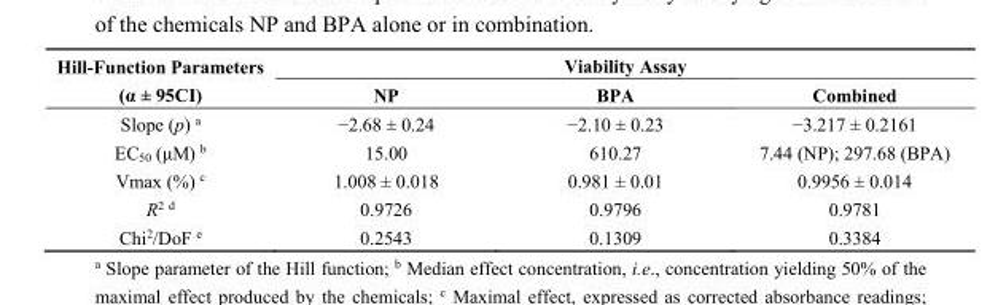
<table><thead><tr><td rowspan="2">Hill-Function Parameters (α ± 95CI)</td><td colspan="3">Viability Assay</td></tr><tr><td>NP</td><td>BPA</td><td>Combined</td></tr></thead><tbody><tr><td>Slope (p) <sup>a</sup></td><td>−2.68 ± 0.24</td><td>−2.10 ± 0.23</td><td>−3.217 ± 0.2161</td></tr><tr><td>EC<sub>50</sub> (μM) <sup>b</sup></td><td>15.00</td><td>610.27</td><td>7.44 (NP); 297.68 (BPA)</td></tr><tr><td>Vmax (%) <sup>c</sup></td><td>1.008 ± 0.018</td><td>0.981 ± 0.01</td><td>0.9956 ± 0.014</td></tr><tr><td>R<sup>2 d</sup></td><td>0.9726</td><td>0.9796</td><td>0.9781</td></tr><tr><td>Chi<sup>2</sup>/DoF <sup>e</sup></td><td>0.2543</td><td>0.1309</td><td>0.3384</td></tr></tbody></table>